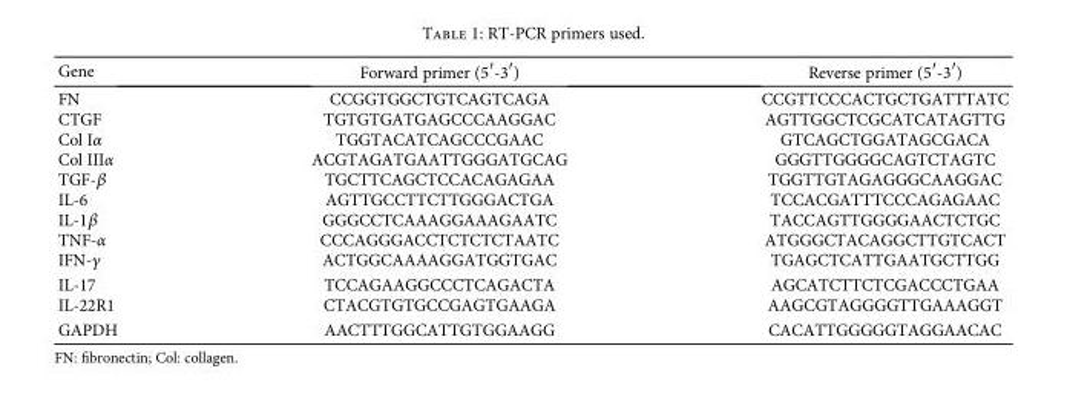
<table><thead><tr><td>Gene</td><td>Forward primer (5′-3′)</td><td>Reverse primer (5′-3′)</td></tr></thead><tbody><tr><td>FN CTGF Col Iα Col IIIα TGF-β IL-6 IL-1β TNF-α IFN-γ</td><td>CCGGTGGCTGTCAGTCAGA TGTGTGATGAGCCCAAGGAC TGGTACATCAGCCCGAAC ACGTAGATGAATTGGGATGCAG TGCTTCAGCTCCACAGAGAA AGTTGCCTTCTTGGGACTGA GGGCCTCAAAGGAAAGAATC CCCAGGGACCTCTCTCTAATC ACTGGCAAAAGGATGGTGAC</td><td>CCGTTCCCACTGCTGATTTATC AGTTGGCTCGCATCATAGTTG GTCAGCTGGATAGCGACA GGGTTGGGGCAGTCTAGTC TGGTTGTAGAGGGCAAGGAC TCCACGATTTCCCAGAGAAC TACCAGTTGGGGAACTCTGC ATGGGCTACAGGCTTGTCACT TGAGCTCATTGAATGCTTGG</td></tr><tr><td>IL-17 IL-22R1</td><td>TCCAGAAGGCCCTCAGACTA CTACGTGTGCCGAGTGAAGA</td><td>AGCATCTTCTCGACCCTGAA AAGCGTAGGGGTTGAAAGGT</td></tr><tr><td>GAPDH</td><td>AACTTTGGCATTGTGGAAGG</td><td>CACATTGGGGGTAGGAACAC</td></tr></tbody></table>